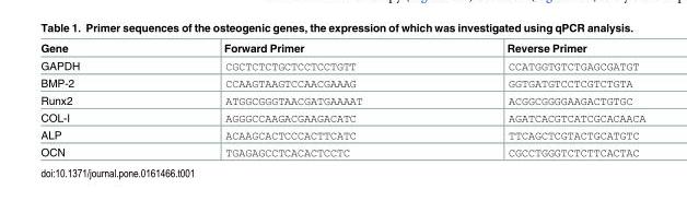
<table><thead><tr><td>Gene</td><td>Forward Primer</td><td>Reverse Primer</td></tr></thead><tbody><tr><td>GAPDH</td><td>CGCTCTCTGCTCCTCCTGTT</td><td>CCATGGTGTCTGAGCGATGT</td></tr><tr><td>BMP-2</td><td>CCAAGTAAGTCCAACGAAAG</td><td>GGTGATGTCCTCGTCTGTA</td></tr><tr><td>Runx2</td><td>ATGGCGGGTAACGATGAAAAT</td><td>ACGGCGGGGAAGACTGTGC</td></tr><tr><td>COL-I</td><td>AGGGCCAAGACGAAGACATC</td><td>AGATCACGTCATCGCACAACA</td></tr><tr><td>ALP</td><td>ACAAGCACTCCCACTTCATC</td><td>TTCAGCTCGTACTGCATGTC</td></tr><tr><td>OCN</td><td>TGAGAGCCTCACACTCCTC</td><td>CGCCTGGGTCTCTTCACTAC</td></tr></tbody></table>